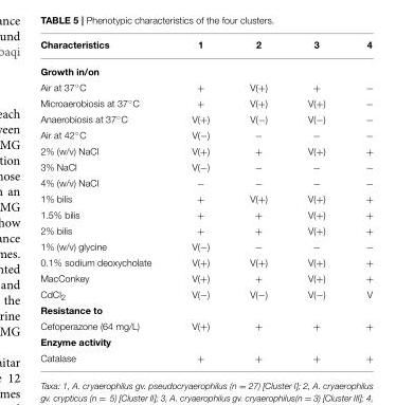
<table><thead><tr><td>Characteristics</td><td>1</td><td>2</td><td>3</td><td>4</td></tr></thead><tbody><tr><td colspan="5">Growth in/on</td></tr><tr><td>Air at 37◦C</td><td>+</td><td>V(+)</td><td>+</td><td>−</td></tr><tr><td>Microaerobiosis at 37◦C</td><td>+</td><td>V(+)</td><td>V(+)</td><td>−</td></tr><tr><td>Anaerobiosis at 37◦C</td><td>V(+)</td><td>V(−)</td><td>V(−)</td><td>−</td></tr><tr><td>Air at 42◦C</td><td>V(−)</td><td>−</td><td>−</td><td>−</td></tr><tr><td>2% (w/v) NaCl</td><td>V(+)</td><td>+</td><td>V(+)</td><td>+</td></tr><tr><td>3% NaCl</td><td>V(−)</td><td>−</td><td>−</td><td>−</td></tr><tr><td>4% (w/v) NaCl</td><td>−</td><td>−</td><td>−</td><td>−</td></tr><tr><td>1% bilis</td><td>+</td><td>V(+)</td><td>V(+)</td><td>+</td></tr><tr><td>1.5% bilis</td><td>+</td><td>+</td><td>V(+)</td><td>+</td></tr><tr><td>2% bilis</td><td>+</td><td>+</td><td>V(+)</td><td>+</td></tr><tr><td>1% (w/v) glycine</td><td>V(−)</td><td>−</td><td>−</td><td>−</td></tr><tr><td>0.1% sodium deoxycholate</td><td>V(+)</td><td>V(+)</td><td>V(+)</td><td>+</td></tr><tr><td>MacConkey</td><td>V(+)</td><td>+</td><td>V(+)</td><td>+</td></tr><tr><td>CdCl<sub>2</sub></td><td>V(−)</td><td>V(−)</td><td>V(−)</td><td>V</td></tr><tr><td colspan="5">Resistance to</td></tr><tr><td>Cefoperazone (64 mg/L)</td><td>V(+)</td><td>+</td><td>+</td><td>+</td></tr><tr><td colspan="5">Enzyme activity</td></tr><tr><td>Catalase</td><td>+</td><td>+</td><td>+</td><td>+</td></tr></tbody></table>